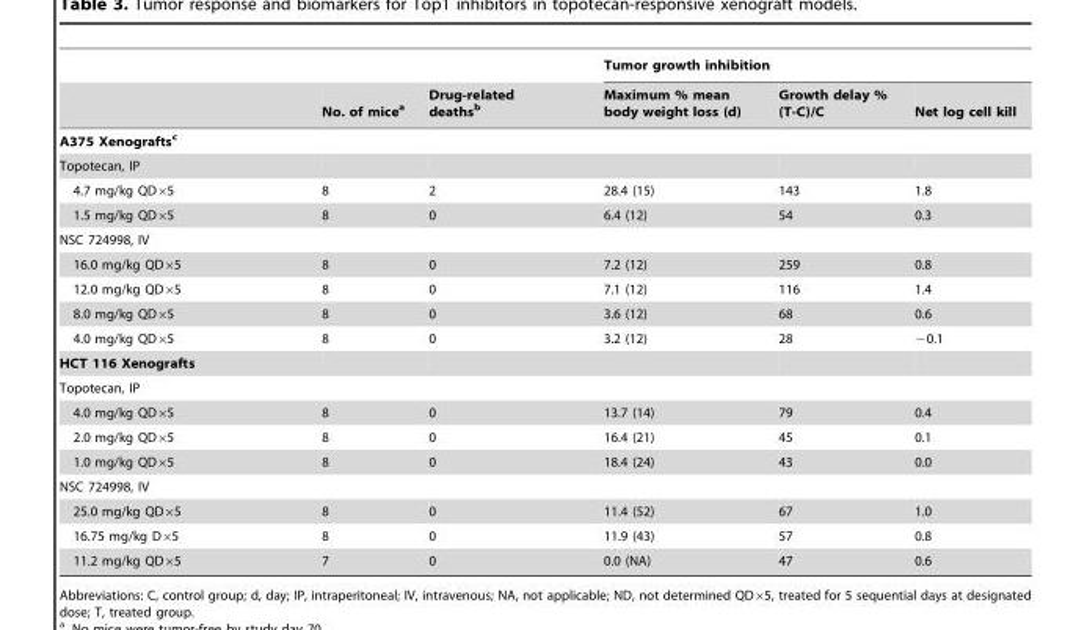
<table><thead><tr><td rowspan="2"></td><td rowspan="2">No. of mice<sup>a</sup></td><td rowspan="2">Drug-related deaths<sup>b</sup></td><td colspan="3">Tumor growth inhibition</td></tr><tr><td>Maximum % mean body weight loss (d)</td><td>Growth delay % (T-C)/C</td><td>Net log cell kill</td></tr></thead><tbody><tr><td colspan="6">A375 Xenograftsc</td></tr><tr><td colspan="6">Topotecan, IP</td></tr><tr><td>4.7 mg/kg QD×5</td><td>8</td><td>2</td><td>28.4 (15)</td><td>143</td><td>1.8</td></tr><tr><td>1.5 mg/kg QD×5</td><td>8</td><td>0</td><td>6.4 (12)</td><td>54</td><td>0.3</td></tr><tr><td colspan="6">NSC 724998, IV</td></tr><tr><td>16.0 mg/kg QD×5</td><td>8</td><td>0</td><td>7.2 (12)</td><td>259</td><td>0.8</td></tr><tr><td>12.0 mg/kg QD×5</td><td>8</td><td>0</td><td>7.1 (12)</td><td>116</td><td>1.4</td></tr><tr><td>8.0 mg/kg QD×5</td><td>8</td><td>0</td><td>3.6 (12)</td><td>68</td><td>0.6</td></tr><tr><td>4.0 mg/kg QD×5</td><td>8</td><td>0</td><td>3.2 (12)</td><td>28</td><td>−0.1</td></tr><tr><td colspan="6">HCT 116 Xenografts</td></tr><tr><td colspan="6">Topotecan, IP</td></tr><tr><td>4.0 mg/kg QD×5</td><td>8</td><td>0</td><td>13.7 (14)</td><td>79</td><td>0.4</td></tr><tr><td>2.0 mg/kg QD×5</td><td>8</td><td>0</td><td>16.4 (21)</td><td>45</td><td>0.1</td></tr><tr><td>1.0 mg/kg QD×5</td><td>8</td><td>0</td><td>18.4 (24)</td><td>43</td><td>0.0</td></tr><tr><td colspan="6">NSC 724998, IV</td></tr><tr><td>25.0 mg/kg QD×5</td><td>8</td><td>0</td><td>11.4 (52)</td><td>67</td><td>1.0</td></tr><tr><td>16.75 mg/kg D×5</td><td>8</td><td>0</td><td>11.9 (43)</td><td>57</td><td>0.8</td></tr><tr><td>11.2 mg/kg QD×5</td><td>7</td><td>0</td><td>0.0 (NA)</td><td>47</td><td>0.6</td></tr></tbody></table>